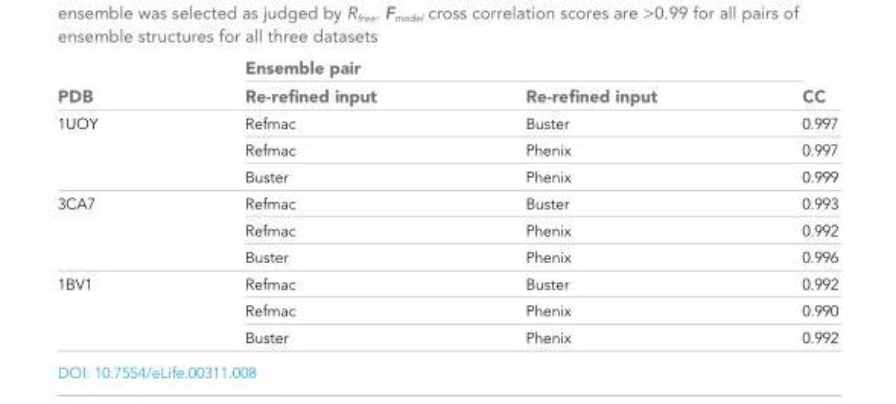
<table><thead><tr><td rowspan="2">PDB</td><td colspan="2">Ensemble pair</td><td rowspan="2">CC</td></tr><tr><td>Re-refined input</td><td>Re-refined input</td></tr></thead><tbody><tr><td rowspan="3">1UOY</td><td>Refmac</td><td>Buster</td><td>0.997</td></tr><tr><td>Refmac</td><td>Phenix</td><td>0.997</td></tr><tr><td>Buster</td><td>Phenix</td><td>0.999</td></tr><tr><td rowspan="3">3CA7</td><td>Refmac</td><td>Buster</td><td>0.993</td></tr><tr><td>Refmac</td><td>Phenix</td><td>0.992</td></tr><tr><td>Buster</td><td>Phenix</td><td>0.996</td></tr><tr><td rowspan="3">1BV1</td><td>Refmac</td><td>Buster</td><td>0.992</td></tr><tr><td>Refmac</td><td>Phenix</td><td>0.990</td></tr><tr><td>Buster</td><td>Phenix</td><td>0.992</td></tr></tbody></table>